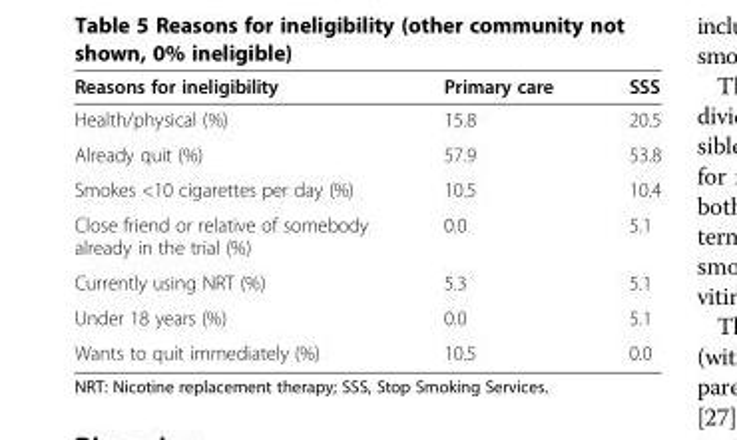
<table><thead><tr><td>Reasons for ineligibility</td><td>Primary care</td><td>SSS</td></tr></thead><tbody><tr><td>Health/physical (%)</td><td>15.8</td><td>20.5</td></tr><tr><td>Already quit (%)</td><td>57.9</td><td>53.8</td></tr><tr><td>Smokes &lt;10 cigarettes per day (%)</td><td>10.5</td><td>10.4</td></tr><tr><td>Close friend or relative of somebody already in the trial (%)</td><td>0.0</td><td>5.1</td></tr><tr><td>Currently using NRT (%)</td><td>5.3</td><td>5.1</td></tr><tr><td>Under 18 years (%)</td><td>0.0</td><td>5.1</td></tr><tr><td>Wants to quit immediately (%)</td><td>10.5</td><td>0.0</td></tr></tbody></table>